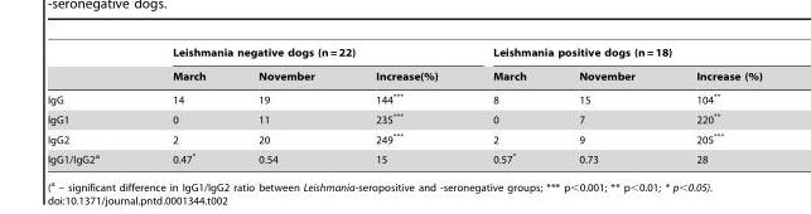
<table><thead><tr><td rowspan="2"></td><td colspan="3">Leishmania negative dogs (n = 22)</td><td colspan="3">Leishmania positive dogs (n = 18)</td></tr><tr><td>March</td><td>November</td><td>Increase(%)</td><td>March</td><td>November</td><td>Increase (%)</td></tr></thead><tbody><tr><td>IgG</td><td>14</td><td>19</td><td>144***</td><td>8</td><td>15</td><td>104**</td></tr><tr><td>IgG1</td><td>0</td><td>11</td><td>235***</td><td>0</td><td>7</td><td>220**</td></tr><tr><td>IgG2</td><td>2</td><td>20</td><td>249***</td><td>2</td><td>9</td><td>205***</td></tr><tr><td>IgG1/IgG2<sup>a</sup></td><td>0.47*</td><td>0.54</td><td>15</td><td>0.57*</td><td>0.73</td><td>28</td></tr></tbody></table>